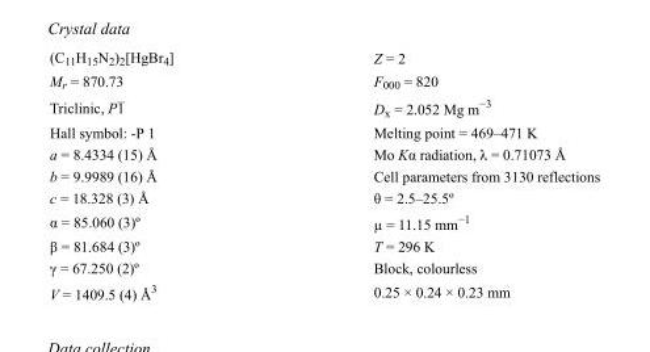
<table><tbody><tr><td>(C<sub>11</sub>H<sub>15</sub>N<sub>2</sub>)<sub>2</sub>[HgBr<sub>4</sub>]</td><td>Z = 2</td></tr><tr><td>M<sub>r</sub> = 870.73</td><td>F000 = 820</td></tr><tr><td>Triclinic, P1</td><td>D<sub>x</sub> = 2.052 Mg m<sup>−3</sup></td></tr><tr><td>Hall symbol: -P 1</td><td>Melting point = 469–471 K</td></tr><tr><td>a = 8.4334 (15) Å</td><td>Mo Kα radiation, λ = 0.71073 Å</td></tr><tr><td>b = 9.9989 (16) Å</td><td>Cell parameters from 3130 reflections</td></tr><tr><td>c = 18.328 (3) Å</td><td>θ = 2.5–25.5º</td></tr><tr><td>α = 85.060 (3)º</td><td>µ = 11.15 mm<sup>−1</sup></td></tr><tr><td>β = 81.684 (3)º</td><td>T = 296 K</td></tr><tr><td>γ = 67.250 (2)º</td><td>Block, colourless</td></tr><tr><td>V = 1409.5 (4) Å<sup>3</sup></td><td>0.25 × 0.24 × 0.23 mm</td></tr></tbody></table>